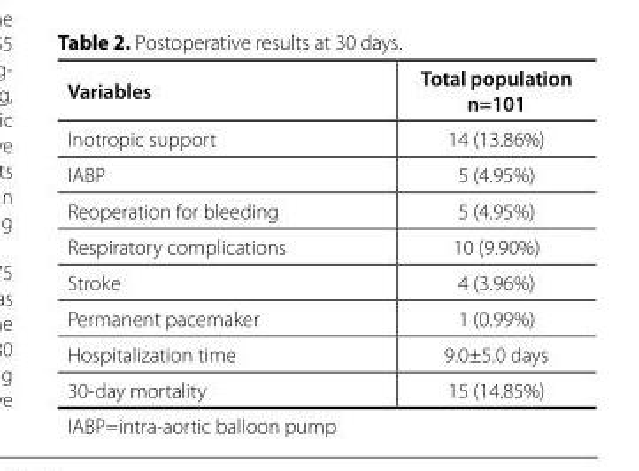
<table><thead><tr><td>Variables</td><td>Total population n=101</td></tr></thead><tbody><tr><td>Inotropic support</td><td>14 (13.86%)</td></tr><tr><td>IABP</td><td>5 (4.95%)</td></tr><tr><td>Reoperation for bleeding</td><td>5 (4.95%)</td></tr><tr><td>Respiratory complications</td><td>10 (9.90%)</td></tr><tr><td>Stroke</td><td>4 (3.96%)</td></tr><tr><td>Permanent pacemaker</td><td>1 (0.99%)</td></tr><tr><td>Hospitalization time</td><td>9.0±5.0 days</td></tr><tr><td>30-day mortality</td><td>15 (14.85%)</td></tr></tbody></table>